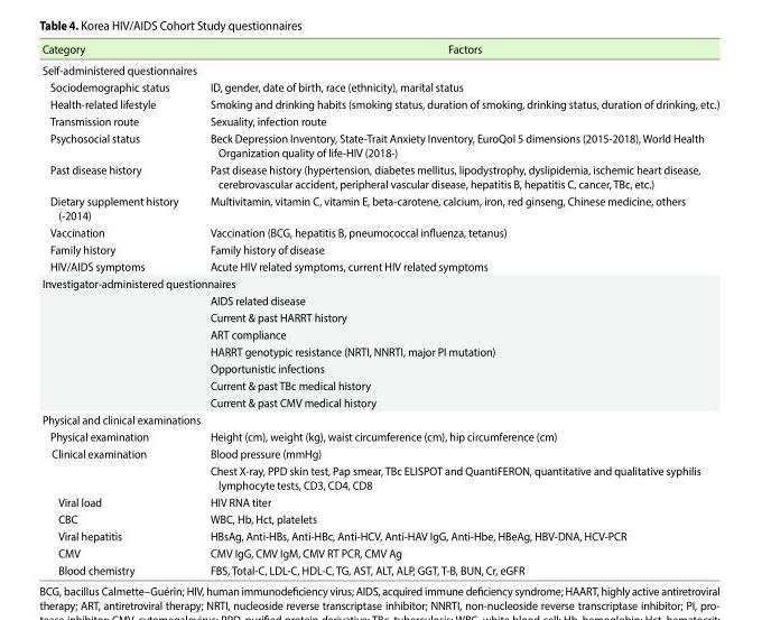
<table><thead><tr><td>Category</td><td>Factors</td></tr></thead><tbody><tr><td colspan="2">Self-administered questionnaires</td></tr><tr><td>Sociodemographic status</td><td>ID, gender, date of birth, race (ethnicity), marital status</td></tr><tr><td>Health-related lifestyle</td><td>Smoking and drinking habits (smoking status, duration of smoking, drinking status, duration of drinking, etc.)</td></tr><tr><td>Transmission route</td><td>Sexuality, infection route</td></tr><tr><td>Psychosocial status</td><td>Beck Depression Inventory, State-Trait Anxiety Inventory, EuroQol 5 dimensions (2015-2018), World Health Organization quality of life-HIV (2018-)</td></tr><tr><td>Past disease history</td><td>Past disease history (hypertension, diabetes mellitus, lipodystrophy, dyslipidemia, ischemic heart disease, cerebrovascular accident, peripheral vascular disease, hepatitis B, hepatitis C, cancer, TBc, etc.)</td></tr><tr><td>Dietary supplement history (-2014)</td><td>Multivitamin, vitamin C, vitamin E, beta-carotene, calcium, iron, red ginseng, Chinese medicine, others</td></tr><tr><td>Vaccination</td><td>Vaccination (BCG, hepatitis B, pneumococcal influenza, tetanus)</td></tr><tr><td>Family history</td><td>Family history of disease</td></tr><tr><td>HIV/AIDS symptoms</td><td>Acute HIV related symptoms, current HIV related symptoms</td></tr><tr><td colspan="2">Investigator-administered questionnaires</td></tr><tr><td></td><td>AIDS related disease</td></tr><tr><td></td><td>Current &amp; past HARRT history</td></tr><tr><td></td><td>ART compliance</td></tr><tr><td></td><td>HARRT genotypic resistance (NRTI, NNRTI, major PI mutation)</td></tr><tr><td></td><td>Opportunistic infections</td></tr><tr><td></td><td>Current &amp; past TBc medical history</td></tr><tr><td></td><td>Current &amp; past CMV medical history</td></tr><tr><td colspan="2">Physical and clinical examinations</td></tr><tr><td>Physical examination</td><td>Height (cm), weight (kg), waist circumference (cm), hip circumference (cm)</td></tr><tr><td rowspan="2">Clinical examination</td><td>Blood pressure (mmHg)</td></tr><tr><td>Chest X-ray, PPD skin test, Pap smear, TBc ELISPOT and QuantiFERON, quantitative and qualitative syphilis lymphocyte tests, CD3, CD4, CD8</td></tr><tr><td>Viral load</td><td>HIV RNA titer</td></tr><tr><td>CBC</td><td>WBC, Hb, Hct, platelets</td></tr><tr><td>Viral hepatitis</td><td>HBsAg, Anti-HBs, Anti-HBc, Anti-HCV, Anti-HAV IgG, Anti-Hbe, HBeAg, HBV-DNA, HCV-PCR</td></tr><tr><td>CMV</td><td>CMV IgG, CMV IgM, CMV RT PCR, CMV Ag</td></tr><tr><td>Blood chemistry</td><td>FBS, Total-C, LDL-C, HDL-C, TG, AST, ALT, ALP, GGT, T-B, BUN, Cr, eGFR</td></tr></tbody></table>